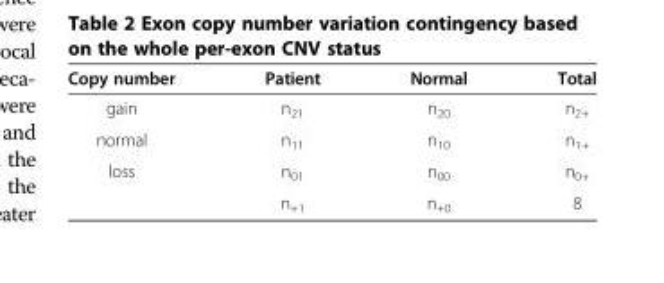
<table><thead><tr><td>Copy number</td><td>Patient</td><td>Normal</td><td>Total</td></tr></thead><tbody><tr><td>gain</td><td>n<sub>21</sub></td><td>n<sub>20</sub></td><td>n<sub>2+</sub></td></tr><tr><td>normal</td><td>n<sub>11</sub></td><td>n<sub>10</sub></td><td>n<sub>1+</sub></td></tr><tr><td rowspan="2">loss</td><td>n<sub>01</sub></td><td>n<sub>00</sub></td><td>n<sub>0+</sub></td></tr><tr><td>n<sub>+1</sub></td><td>n<sub>+0</sub></td><td>8</td></tr></tbody></table>